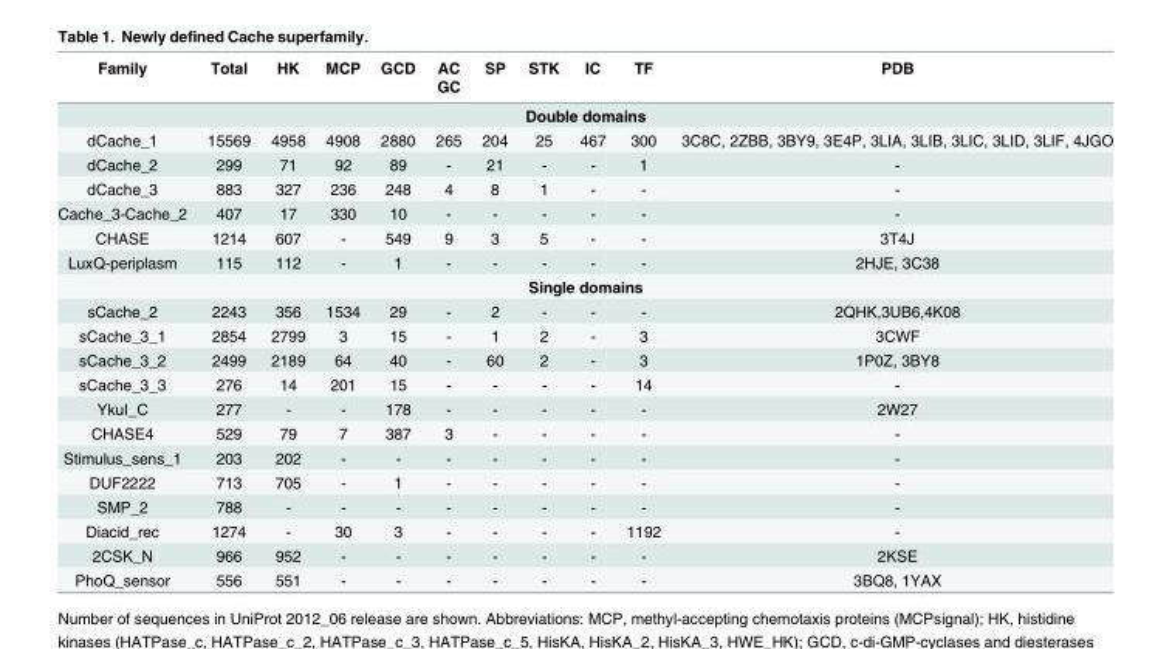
<table><thead><tr><td rowspan="2">Family</td><td rowspan="2">Total</td><td rowspan="2">HK</td><td rowspan="2">MCP</td><td rowspan="2">GCD</td><td rowspan="2">AC GC</td><td rowspan="2">SP</td><td rowspan="2">STK</td><td rowspan="2">IC</td><td rowspan="2">TF</td><td rowspan="2">PDB</td></tr><tr></tr></thead><tbody><tr><td colspan="11">Double domains</td></tr><tr><td>dCache_1</td><td>15569</td><td>4958</td><td>4908</td><td>2880</td><td>265</td><td>204</td><td>25</td><td>467</td><td>300</td><td>3C8C, 2ZBB, 3BY9, 3E4P, 3LIA, 3LIB, 3LIC, 3LID, 3LIF, 4JGO</td></tr><tr><td>dCache_2</td><td>299</td><td>71</td><td>92</td><td>89</td><td>-</td><td>21</td><td>-</td><td>-</td><td>1</td><td>-</td></tr><tr><td>dCache_3</td><td>883</td><td>327</td><td>236</td><td>248</td><td>4</td><td>8</td><td>1</td><td>-</td><td>-</td><td>-</td></tr><tr><td>Cache_3-Cache_2</td><td>407</td><td>17</td><td>330</td><td>10</td><td>-</td><td>-</td><td>-</td><td>-</td><td>-</td><td>-</td></tr><tr><td>CHASE</td><td>1214</td><td>607</td><td>-</td><td>549</td><td>9</td><td>3</td><td>5</td><td>-</td><td>-</td><td>3T4J</td></tr><tr><td>LuxQ-periplasm</td><td>115</td><td>112</td><td>-</td><td>1</td><td>-</td><td>-</td><td>-</td><td>-</td><td>-</td><td>2HJE, 3C38</td></tr><tr><td colspan="11">Single domains</td></tr><tr><td>sCache_2</td><td>2243</td><td>356</td><td>1534</td><td>29</td><td>-</td><td>2</td><td>-</td><td>-</td><td>-</td><td>2QHK,3UB6,4K08</td></tr><tr><td>sCache_3_1</td><td>2854</td><td>2799</td><td>3</td><td>15</td><td>-</td><td>1</td><td>2</td><td>-</td><td>3</td><td>3CWF</td></tr><tr><td>sCache_3_2</td><td>2499</td><td>2189</td><td>64</td><td>40</td><td>-</td><td>60</td><td>2</td><td>-</td><td>3</td><td>1P0Z, 3BY8</td></tr><tr><td>sCache_3_3</td><td>276</td><td>14</td><td>201</td><td>15</td><td>-</td><td>-</td><td>-</td><td>-</td><td>14</td><td>-</td></tr><tr><td>YkuI_C</td><td>277</td><td>-</td><td>-</td><td>178</td><td>-</td><td>-</td><td>-</td><td>-</td><td>-</td><td>2W27</td></tr><tr><td>CHASE4</td><td>529</td><td>79</td><td>7</td><td>387</td><td>3</td><td>-</td><td>-</td><td>-</td><td>-</td><td>-</td></tr><tr><td>Stimulus_sens_1</td><td>203</td><td>202</td><td>-</td><td>-</td><td>-</td><td>-</td><td>-</td><td>-</td><td>-</td><td>-</td></tr><tr><td>DUF2222</td><td>713</td><td>705</td><td>-</td><td>1</td><td>-</td><td>-</td><td>-</td><td>-</td><td>-</td><td>-</td></tr><tr><td>SMP_2</td><td>788</td><td>-</td><td>-</td><td>-</td><td>-</td><td>-</td><td>-</td><td>-</td><td>-</td><td>-</td></tr><tr><td>Diacid_rec</td><td>1274</td><td>-</td><td>30</td><td>3</td><td>-</td><td>-</td><td>-</td><td>-</td><td>1192</td><td>-</td></tr><tr><td>2CSK_N</td><td>966</td><td>952</td><td>-</td><td>-</td><td>-</td><td>-</td><td>-</td><td>-</td><td>-</td><td>2KSE</td></tr><tr><td>PhoQ_sensor</td><td>556</td><td>551</td><td>-</td><td>-</td><td>-</td><td>-</td><td>-</td><td>-</td><td>-</td><td>3BQ8, 1YAX</td></tr></tbody></table>